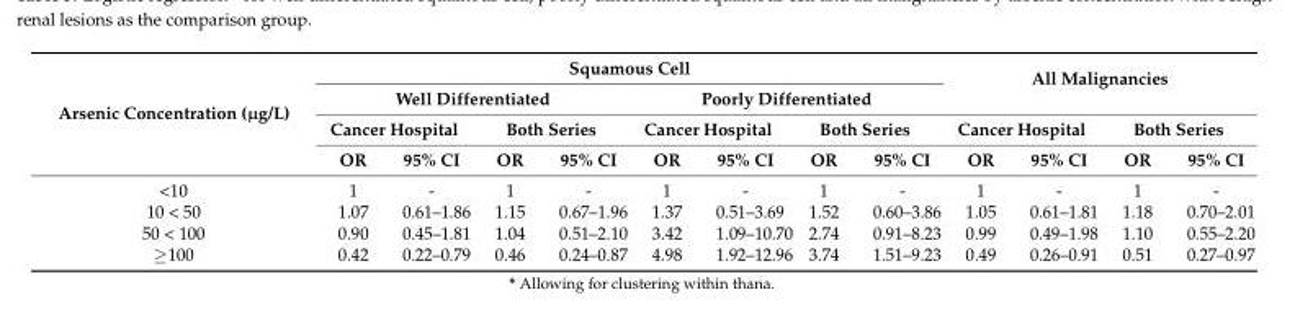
<table><thead><tr><td rowspan="4">Arsenic Concentration (µg/L)</td><td colspan="8">Squamous Cell</td><td rowspan="2" colspan="4">All Malignancies</td></tr><tr><td colspan="4">Well Differentiated</td><td colspan="4">Poorly Differentiated</td></tr><tr><td colspan="2">Cancer Hospital</td><td colspan="2">Both Series</td><td colspan="2">Cancer Hospital</td><td colspan="2">Both Series</td><td colspan="2">Cancer Hospital</td><td colspan="2">Both Series</td></tr><tr><td>OR</td><td>95% CI</td><td>OR</td><td>95% CI</td><td>OR</td><td>95% CI</td><td>OR</td><td>95% CI</td><td>OR</td><td>95% CI</td><td>OR</td><td>95% CI</td></tr></thead><tbody><tr><td>&lt;10</td><td>1</td><td>-</td><td>1</td><td>-</td><td>1</td><td>-</td><td>1</td><td>-</td><td>1</td><td>-</td><td>1</td><td>-</td></tr><tr><td>10 &lt; 50</td><td>1.07</td><td>0.61–1.86</td><td>1.15</td><td>0.67–1.96</td><td>1.37</td><td>0.51–3.69</td><td>1.52</td><td>0.60–3.86</td><td>1.05</td><td>0.61–1.81</td><td>1.18</td><td>0.70–2.01</td></tr><tr><td>50 &lt; 100</td><td>0.90</td><td>0.45–1.81</td><td>1.04</td><td>0.51–2.10</td><td>3.42</td><td>1.09–10.70</td><td>2.74</td><td>0.91–8.23</td><td>0.99</td><td>0.49–1.98</td><td>1.10</td><td>0.55–2.20</td></tr><tr><td>≥100</td><td>0.42</td><td>0.22–0.79</td><td>0.46</td><td>0.24–0.87</td><td>4.98</td><td>1.92–12.96</td><td>3.74</td><td>1.51–9.23</td><td>0.49</td><td>0.26–0.91</td><td>0.51</td><td>0.27–0.97</td></tr></tbody></table>